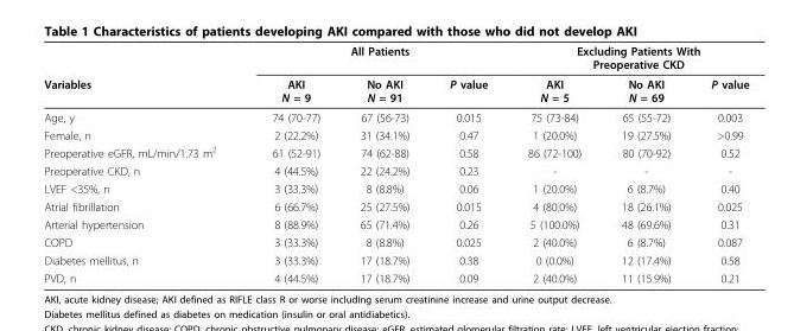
<table><thead><tr><td rowspan="2">Variables</td><td colspan="3">All Patients</td><td colspan="3">Excluding Patients With Preoperative CKD</td></tr><tr><td>AKI N = 9</td><td>No AKI N = 91</td><td>P value</td><td>AKI N = 5</td><td>No AKI N = 69</td><td>P value</td></tr></thead><tbody><tr><td>Age, y</td><td>74 (70-77)</td><td>67 (56-73)</td><td>0.015</td><td>75 (73-84)</td><td>65 (55-72)</td><td>0.003</td></tr><tr><td>Female, n</td><td>2 (22.2%)</td><td>31 (34.1%)</td><td>0.47</td><td>1 (20.0%)</td><td>19 (27.5%)</td><td>&gt;0.99</td></tr><tr><td>Preoperative eGFR, mL/min/1.73 m<sup>2</sup></td><td>61 (52-91)</td><td>74 (62-88)</td><td>0.58</td><td>86 (72-100)</td><td>80 (70-92)</td><td>0.52</td></tr><tr><td>Preoperative CKD, n</td><td>4 (44.5%)</td><td>22 (24.2%)</td><td>0.23</td><td>-</td><td>-</td><td>-</td></tr><tr><td>LVEF &lt;35%, n</td><td>3 (33.3%)</td><td>8 (8.8%)</td><td>0.06</td><td>1 (20.0%)</td><td>6 (8.7%)</td><td>0.40</td></tr><tr><td>Atrial fibrillation</td><td>6 (66.7%)</td><td>25 (27.5%)</td><td>0.015</td><td>4 (80.0%)</td><td>18 (26.1%)</td><td>0.025</td></tr><tr><td>Arterial hypertension</td><td>8 (88.9%)</td><td>65 (71.4%)</td><td>0.26</td><td>5 (100.0%)</td><td>48 (69.6%)</td><td>0.31</td></tr><tr><td>COPD</td><td>3 (33.3%)</td><td>8 (8.8%)</td><td>0.025</td><td>2 (40.0%)</td><td>6 (8.7%)</td><td>0.087</td></tr><tr><td>Diabetes mellitus, n</td><td>3 (33.3%)</td><td>17 (18.7%)</td><td>0.38</td><td>0 (0.0%)</td><td>12 (17.4%)</td><td>0.58</td></tr><tr><td>PVD, n</td><td>4 (44.5%)</td><td>17 (18.7%)</td><td>0.09</td><td>2 (40.0%)</td><td>11 (15.9%)</td><td>0.21</td></tr></tbody></table>